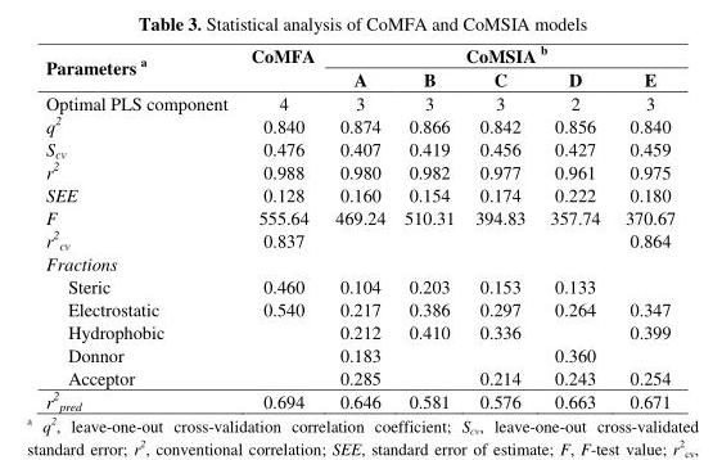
<table><thead><tr><td rowspan="2">Parameters a</td><td rowspan="2">CoMFA</td><td colspan="5">CoMSIA b</td></tr><tr><td>A</td><td>B</td><td>C</td><td>D</td><td>E</td></tr></thead><tbody><tr><td>Optimal PLS component</td><td>4</td><td>3</td><td>3</td><td>3</td><td>2</td><td>3</td></tr><tr><td>q<sup>2</sup></td><td>0.840</td><td>0.874</td><td>0.866</td><td>0.842</td><td>0.856</td><td>0.840</td></tr><tr><td>S<sub>cv</sub></td><td>0.476</td><td>0.407</td><td>0.419</td><td>0.456</td><td>0.427</td><td>0.459</td></tr><tr><td>r<sup>2</sup></td><td>0.988</td><td>0.980</td><td>0.982</td><td>0.977</td><td>0.961</td><td>0.975</td></tr><tr><td>SEE</td><td>0.128</td><td>0.160</td><td>0.154</td><td>0.174</td><td>0.222</td><td>0.180</td></tr><tr><td>F</td><td>555.64</td><td>469.24</td><td>510.31</td><td>394.83</td><td>357.74</td><td>370.67</td></tr><tr><td>r<sup>2</sup> <sub>cv</sub></td><td>0.837</td><td></td><td></td><td></td><td></td><td>0.864</td></tr><tr><td colspan="7">Fractions</td></tr><tr><td>Steric</td><td>0.460</td><td>0.104</td><td>0.203</td><td>0.153</td><td>0.133</td><td></td></tr><tr><td>Electrostatic</td><td>0.540</td><td>0.217</td><td>0.386</td><td>0.297</td><td>0.264</td><td>0.347</td></tr><tr><td>Hydrophobic</td><td></td><td>0.212</td><td>0.410</td><td>0.336</td><td></td><td>0.399</td></tr><tr><td>Donnor</td><td></td><td>0.183</td><td></td><td></td><td>0.360</td><td></td></tr><tr><td>Acceptor</td><td></td><td>0.285</td><td></td><td>0.214</td><td>0.243</td><td>0.254</td></tr><tr><td>r<sup>2</sup> <sub>pred</sub></td><td>0.694</td><td>0.646</td><td>0.581</td><td>0.576</td><td>0.663</td><td>0.671</td></tr></tbody></table>